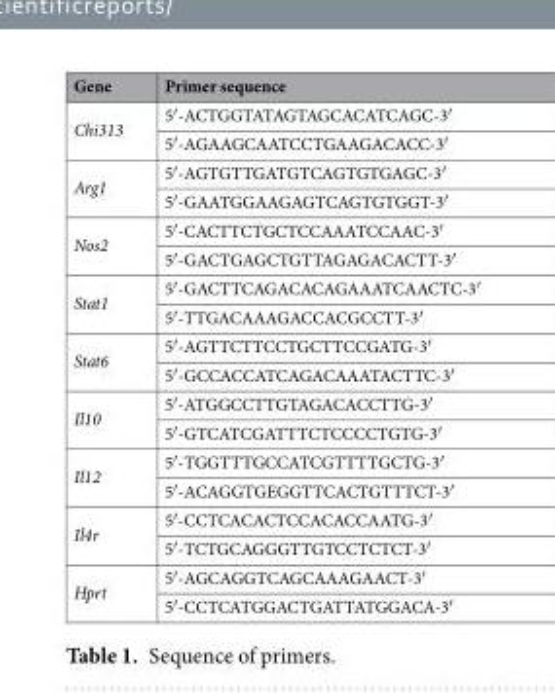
<table><thead><tr><td>Gene</td><td>Primer sequence</td></tr></thead><tbody><tr><td rowspan="2">Chi313</td><td>5′-ACTGGTATAGTAGCACATCAGC-3′</td></tr><tr><td>5′-AGAAGCAATCCTGAAGACACC-3′</td></tr><tr><td rowspan="2">Arg1</td><td>5′-AGTGTTGATGTCAGTGTGAGC-3′</td></tr><tr><td>5′-GAATGGAAGAGTCAGTGTGGT-3′</td></tr><tr><td rowspan="2">Nos2</td><td>5′-CACTTCTGCTCCAAATCCAAC-3′</td></tr><tr><td>5′-GACTGAGCTGTTAGAGACACTT-3′</td></tr><tr><td rowspan="2">Stat1</td><td>5′-GACTTCAGACACAGAAATCAACTC-3′</td></tr><tr><td>5′-TTGACAAAGACCACGCCTT-3′</td></tr><tr><td rowspan="2">Stat6</td><td>5′-AGTTCTTCCTGCTTCCGATG-3′</td></tr><tr><td>5′-GCCACCATCAGACAAATACTTC-3′</td></tr><tr><td rowspan="2">Il10</td><td>5′-ATGGCCTTGTAGACACCTTG-3′</td></tr><tr><td>5′-GTCATCGATTTCTCCCCTGTG-3′</td></tr><tr><td rowspan="2">Il12</td><td>5′-TGGTTTGCCATCGTTTTGCTG-3′</td></tr><tr><td>5′-ACAGGTGEGGTTCACTGTTTCT-3′</td></tr><tr><td rowspan="2">Il4r</td><td>5′-CCTCACACTCCACACCAATG-3′</td></tr><tr><td>5′-TCTGCAGGGTTGTCCTCTCT-3′</td></tr><tr><td rowspan="2">Hprt</td><td>5′-AGCAGGTCAGCAAAGAACT-3′</td></tr><tr><td>5′-CCTCATGGACTGATTATGGACA-3′</td></tr></tbody></table>